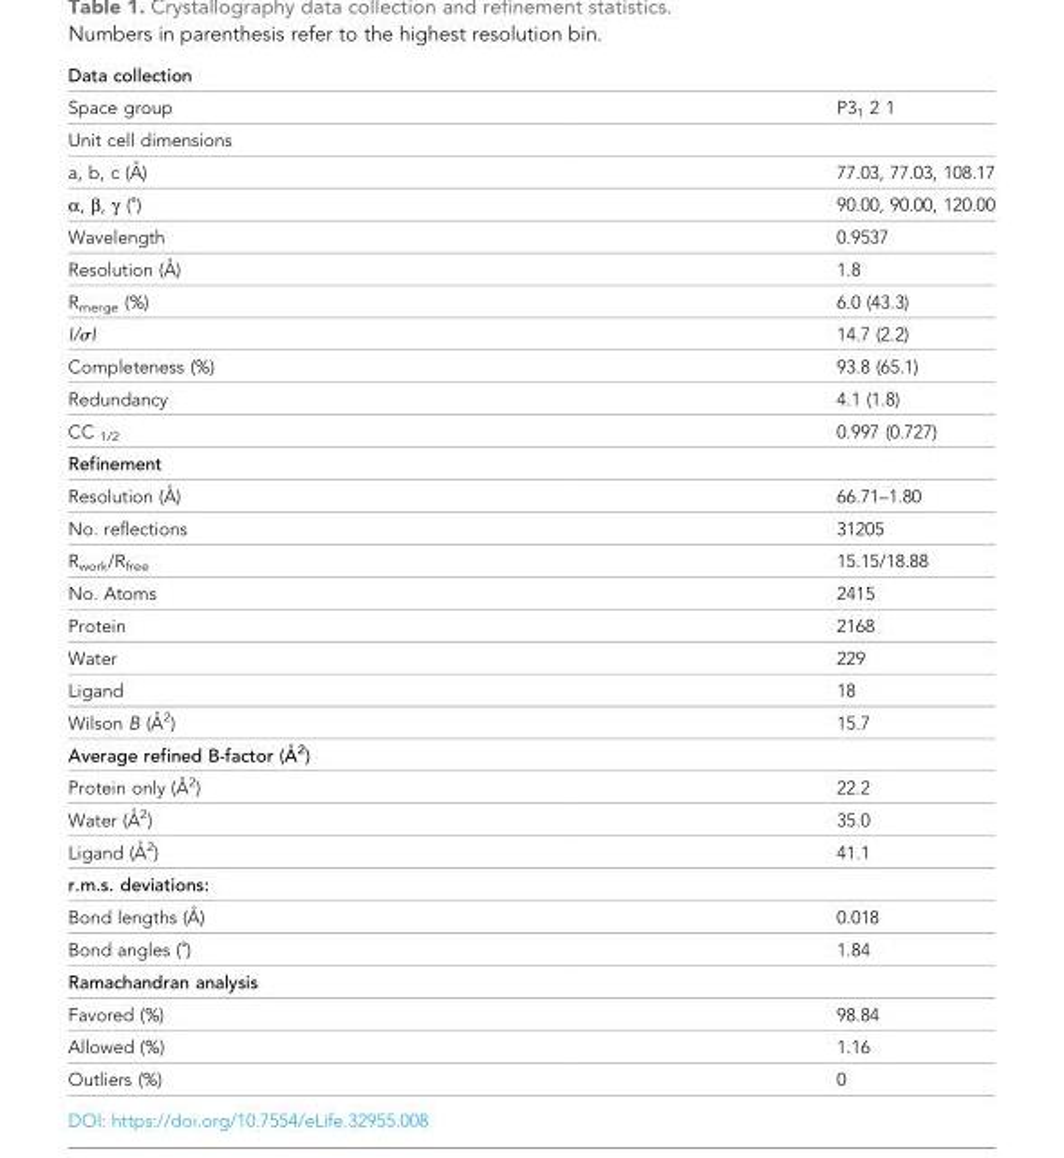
<table><tbody><tr><td colspan="2">Data collection</td></tr><tr><td>Space group</td><td>P3<sub>1</sub> 2 1</td></tr><tr><td colspan="2">Unit cell dimensions</td></tr><tr><td>a, b, c (A˚ )</td><td>77.03, 77.03, 108.17</td></tr><tr><td>α, β, γ (˚)</td><td>90.00, 90.00, 120.00</td></tr><tr><td>Wavelength</td><td>0.9537</td></tr><tr><td>Resolution (A˚ )</td><td>1.8</td></tr><tr><td>R<sub>merge</sub> (%)</td><td>6.0 (43.3)</td></tr><tr><td>I/σI</td><td>14.7 (2.2)</td></tr><tr><td>Completeness (%)</td><td>93.8 (65.1)</td></tr><tr><td>Redundancy</td><td>4.1 (1.8)</td></tr><tr><td>CC <sub>1/2</sub></td><td>0.997 (0.727)</td></tr><tr><td colspan="2">Refinement</td></tr><tr><td>Resolution (A˚ )</td><td>66.71–1.80</td></tr><tr><td>No. reflections</td><td>31205</td></tr><tr><td>R<sub>work</sub>/R<sub>free</sub></td><td>15.15/18.88</td></tr><tr><td>No. Atoms</td><td>2415</td></tr><tr><td>Protein</td><td>2168</td></tr><tr><td>Water</td><td>229</td></tr><tr><td>Ligand</td><td>18</td></tr><tr><td>Wilson B (A˚ 2)</td><td>15.7</td></tr><tr><td colspan="2">Average refined B-factor (A˚ 2)</td></tr><tr><td>Protein only (A˚ 2)</td><td>22.2</td></tr><tr><td>Water (A˚ 2)</td><td>35.0</td></tr><tr><td>Ligand (A˚ 2)</td><td>41.1</td></tr><tr><td colspan="2">r.m.s. deviations:</td></tr><tr><td>Bond lengths (A˚ )</td><td>0.018</td></tr><tr><td>Bond angles (˚)</td><td>1.84</td></tr><tr><td colspan="2">Ramachandran analysis</td></tr><tr><td>Favored (%)</td><td>98.84</td></tr><tr><td>Allowed (%)</td><td>1.16</td></tr><tr><td>Outliers (%)</td><td>0</td></tr></tbody></table>